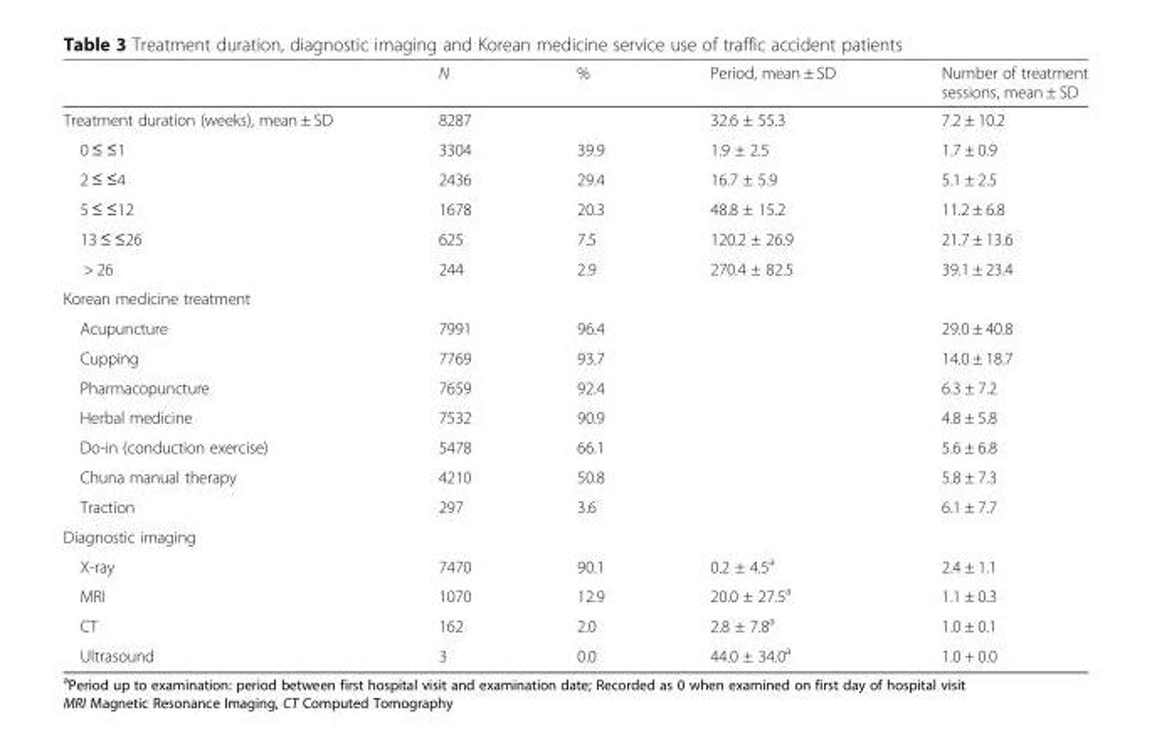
<table><thead><tr><td></td><td>N</td><td>%</td><td>Period, mean ± SD</td><td>Number of treatment sessions, mean ± SD</td></tr></thead><tbody><tr><td>Treatment duration (weeks), mean ± SD</td><td>8287</td><td></td><td>32.6 ± 55.3</td><td>7.2 ± 10.2</td></tr><tr><td>0 ≤ ≤1</td><td>3304</td><td>39.9</td><td>1.9 ± 2.5</td><td>1.7 ± 0.9</td></tr><tr><td>2 ≤ ≤4</td><td>2436</td><td>29.4</td><td>16.7 ± 5.9</td><td>5.1 ± 2.5</td></tr><tr><td>5 ≤ ≤12</td><td>1678</td><td>20.3</td><td>48.8 ± 15.2</td><td>11.2 ± 6.8</td></tr><tr><td>13 ≤ ≤26</td><td>625</td><td>7.5</td><td>120.2 ± 26.9</td><td>21.7 ± 13.6</td></tr><tr><td>&gt; 26</td><td>244</td><td>2.9</td><td>270.4 ± 82.5</td><td>39.1 ± 23.4</td></tr><tr><td colspan="5">Korean medicine treatment</td></tr><tr><td>Acupuncture</td><td>7991</td><td>96.4</td><td></td><td>29.0 ± 40.8</td></tr><tr><td>Cupping</td><td>7769</td><td>93.7</td><td></td><td>14.0 ± 18.7</td></tr><tr><td>Pharmacopuncture</td><td>7659</td><td>92.4</td><td></td><td>6.3 ± 7.2</td></tr><tr><td>Herbal medicine</td><td>7532</td><td>90.9</td><td></td><td>4.8 ± 5.8</td></tr><tr><td>Do-in (conduction exercise)</td><td>5478</td><td>66.1</td><td></td><td>5.6 ± 6.8</td></tr><tr><td>Chuna manual therapy</td><td>4210</td><td>50.8</td><td></td><td>5.8 ± 7.3</td></tr><tr><td>Traction</td><td>297</td><td>3.6</td><td></td><td>6.1 ± 7.7</td></tr><tr><td colspan="5">Diagnostic imaging</td></tr><tr><td>X-ray</td><td>7470</td><td>90.1</td><td>0.2 ± 4.5<sup>a</sup></td><td>2.4 ± 1.1</td></tr><tr><td>MRI</td><td>1070</td><td>12.9</td><td>20.0 ± 27.5<sup>a</sup></td><td>1.1 ± 0.3</td></tr><tr><td>CT</td><td>162</td><td>2.0</td><td>2.8 ± 7.8<sup>a</sup></td><td>1.0 ± 0.1</td></tr><tr><td>Ultrasound</td><td>3</td><td>0.0</td><td>44.0 ± 34.0<sup>a</sup></td><td>1.0 + 0.0</td></tr></tbody></table>